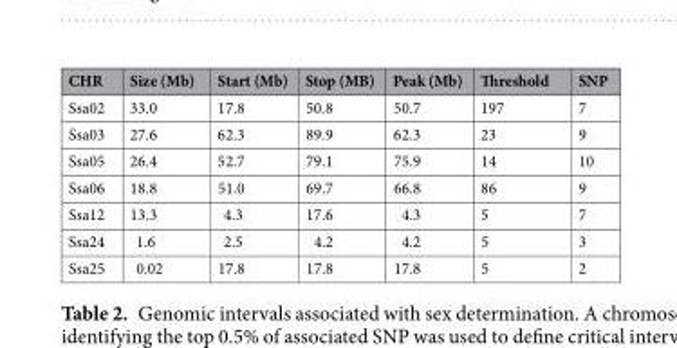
<table><thead><tr><td>CHR</td><td>Size (Mb)</td><td>Start (Mb)</td><td>Stop (MB)</td><td>Peak (Mb)</td><td>Threshold</td><td>SNP</td></tr></thead><tbody><tr><td>Ssa02</td><td>33.0</td><td>17.8</td><td>50.8</td><td>50.7</td><td>197</td><td>7</td></tr><tr><td>Ssa03</td><td>27.6</td><td>62.3</td><td>89.9</td><td>62.3</td><td>23</td><td>9</td></tr><tr><td>Ssa05</td><td>26.4</td><td>52.7</td><td>79.1</td><td>75.9</td><td>14</td><td>10</td></tr><tr><td>Ssa06</td><td>18.8</td><td>51.0</td><td>69.7</td><td>66.8</td><td>86</td><td>9</td></tr><tr><td>Ssa12</td><td>13.3</td><td>4.3</td><td>17.6</td><td>4.3</td><td>5</td><td>7</td></tr><tr><td>Ssa24</td><td>1.6</td><td>2.5</td><td>4.2</td><td>4.2</td><td>5</td><td>3</td></tr><tr><td>Ssa25</td><td>0.02</td><td>17.8</td><td>17.8</td><td>17.8</td><td>5</td><td>2</td></tr></tbody></table>